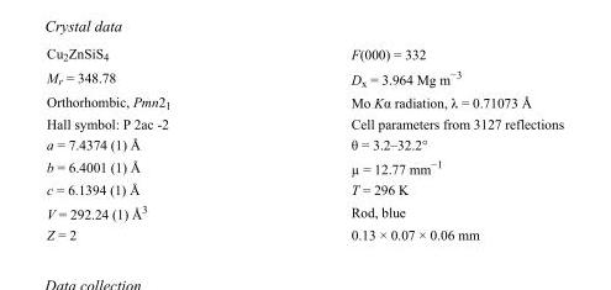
<table><tbody><tr><td>Cu<sub>2</sub>ZnSiS<sub>4</sub></td><td>F(000) = 332</td></tr><tr><td>M<sub>r</sub> = 348.78</td><td>D<sub>x</sub> = 3.964 Mg m<sup>−3</sup></td></tr><tr><td>Orthorhombic, Pmn2<sub>1</sub></td><td>Mo Kα radiation, λ = 0.71073 Å</td></tr><tr><td>Hall symbol: P 2ac -2</td><td>Cell parameters from 3127 reflections</td></tr><tr><td>a = 7.4374 (1) Å</td><td>θ = 3.2–32.2°</td></tr><tr><td>b = 6.4001 (1) Å</td><td>µ = 12.77 mm<sup>−1</sup></td></tr><tr><td>c = 6.1394 (1) Å</td><td>T = 296 K</td></tr><tr><td>V = 292.24 (1) Å<sup>3</sup></td><td>Rod, blue</td></tr><tr><td>Z = 2</td><td>0.13 × 0.07 × 0.06 mm</td></tr></tbody></table>